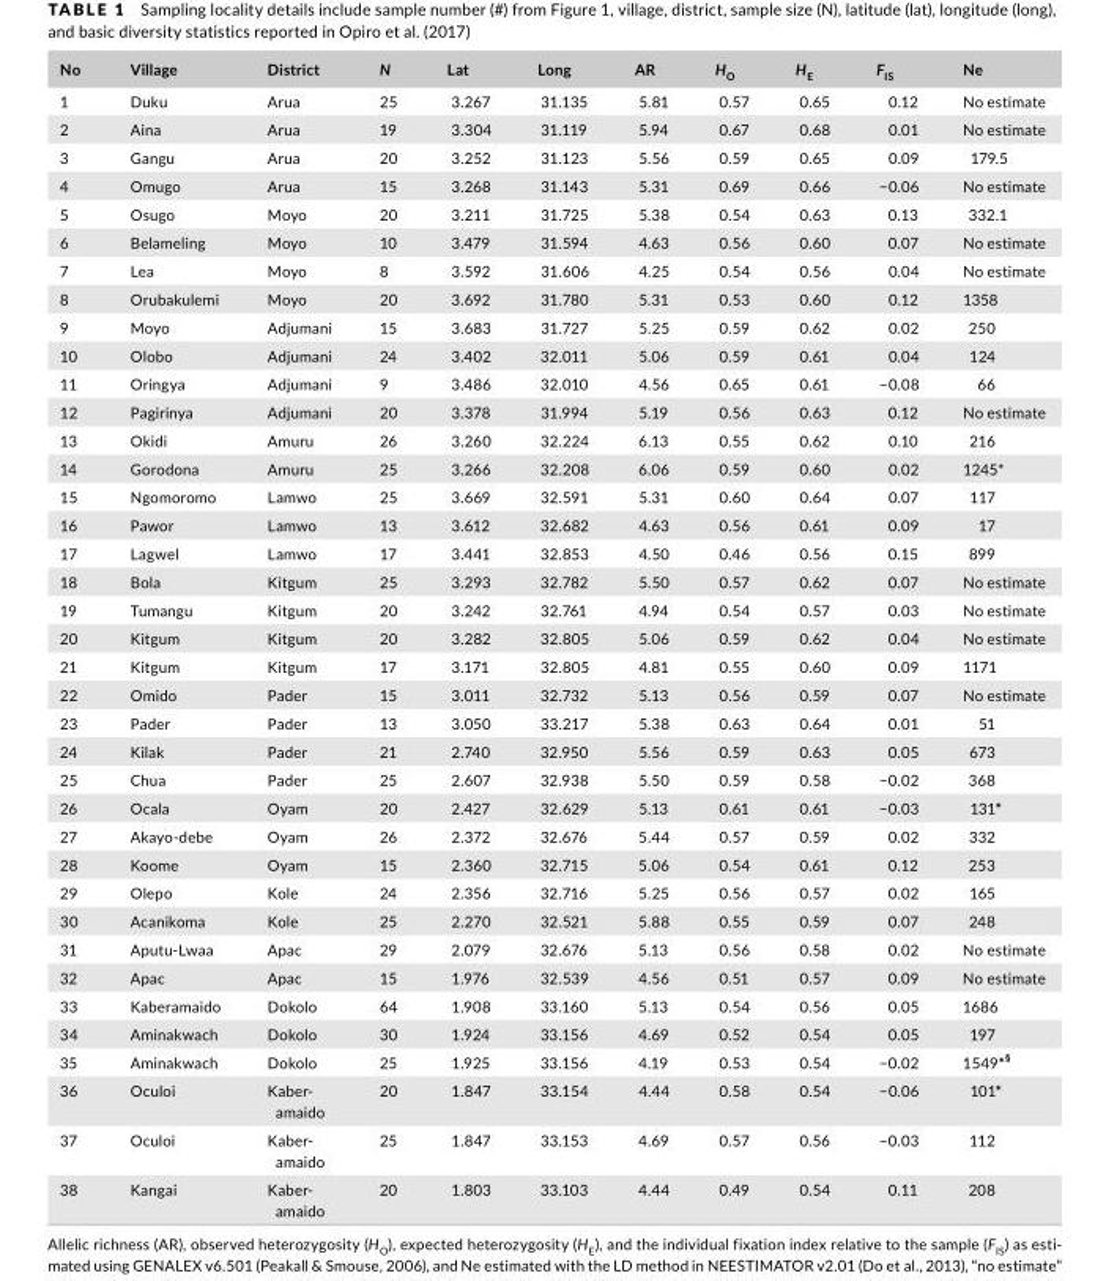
<table><thead><tr><td>No</td><td>Village</td><td>District</td><td>N</td><td>Lat</td><td>Long</td><td>AR</td><td>H<sub>O</sub></td><td>H<sub>E</sub></td><td>F<sub>IS</sub></td><td>Ne</td></tr></thead><tbody><tr><td>1</td><td>Duku</td><td>Arua</td><td>25</td><td>3.267</td><td>31.135</td><td>5.81</td><td>0.57</td><td>0.65</td><td>0.12</td><td>No estimate</td></tr><tr><td>2</td><td>Aina</td><td>Arua</td><td>19</td><td>3.304</td><td>31.119</td><td>5.94</td><td>0.67</td><td>0.68</td><td>0.01</td><td>No estimate</td></tr><tr><td>3</td><td>Gangu</td><td>Arua</td><td>20</td><td>3.252</td><td>31.123</td><td>5.56</td><td>0.59</td><td>0.65</td><td>0.09</td><td>179.5</td></tr><tr><td>4</td><td>Omugo</td><td>Arua</td><td>15</td><td>3.268</td><td>31.143</td><td>5.31</td><td>0.69</td><td>0.66</td><td>−0.06</td><td>No estimate</td></tr><tr><td>5</td><td>Osugo</td><td>Moyo</td><td>20</td><td>3.211</td><td>31.725</td><td>5.38</td><td>0.54</td><td>0.63</td><td>0.13</td><td>332.1</td></tr><tr><td>6</td><td>Belameling</td><td>Moyo</td><td>10</td><td>3.479</td><td>31.594</td><td>4.63</td><td>0.56</td><td>0.60</td><td>0.07</td><td>No estimate</td></tr><tr><td>7</td><td>Lea</td><td>Moyo</td><td>8</td><td>3.592</td><td>31.606</td><td>4.25</td><td>0.54</td><td>0.56</td><td>0.04</td><td>No estimate</td></tr><tr><td>8</td><td>Orubakulemi</td><td>Moyo</td><td>20</td><td>3.692</td><td>31.780</td><td>5.31</td><td>0.53</td><td>0.60</td><td>0.12</td><td>1358</td></tr><tr><td>9</td><td>Moyo</td><td>Adjumani</td><td>15</td><td>3.683</td><td>31.727</td><td>5.25</td><td>0.59</td><td>0.62</td><td>0.02</td><td>250</td></tr><tr><td>10</td><td>Olobo</td><td>Adjumani</td><td>24</td><td>3.402</td><td>32.011</td><td>5.06</td><td>0.59</td><td>0.61</td><td>0.04</td><td>124</td></tr><tr><td>11</td><td>Oringya</td><td>Adjumani</td><td>9</td><td>3.486</td><td>32.010</td><td>4.56</td><td>0.65</td><td>0.61</td><td>−0.08</td><td>66</td></tr><tr><td>12</td><td>Pagirinya</td><td>Adjumani</td><td>20</td><td>3.378</td><td>31.994</td><td>5.19</td><td>0.56</td><td>0.63</td><td>0.12</td><td>No estimate</td></tr><tr><td>13</td><td>Okidi</td><td>Amuru</td><td>26</td><td>3.260</td><td>32.224</td><td>6.13</td><td>0.55</td><td>0.62</td><td>0.10</td><td>216</td></tr><tr><td>14</td><td>Gorodona</td><td>Amuru</td><td>25</td><td>3.266</td><td>32.208</td><td>6.06</td><td>0.59</td><td>0.60</td><td>0.02</td><td>1245*</td></tr><tr><td>15</td><td>Ngomoromo</td><td>Lamwo</td><td>25</td><td>3.669</td><td>32.591</td><td>5.31</td><td>0.60</td><td>0.64</td><td>0.07</td><td>117</td></tr><tr><td>16</td><td>Pawor</td><td>Lamwo</td><td>13</td><td>3.612</td><td>32.682</td><td>4.63</td><td>0.56</td><td>0.61</td><td>0.09</td><td>17</td></tr><tr><td>17</td><td>Lagwel</td><td>Lamwo</td><td>17</td><td>3.441</td><td>32.853</td><td>4.50</td><td>0.46</td><td>0.56</td><td>0.15</td><td>899</td></tr><tr><td>18</td><td>Bola</td><td>Kitgum</td><td>25</td><td>3.293</td><td>32.782</td><td>5.50</td><td>0.57</td><td>0.62</td><td>0.07</td><td>No estimate</td></tr><tr><td>19</td><td>Tumangu</td><td>Kitgum</td><td>20</td><td>3.242</td><td>32.761</td><td>4.94</td><td>0.54</td><td>0.57</td><td>0.03</td><td>No estimate</td></tr><tr><td>20</td><td>Kitgum</td><td>Kitgum</td><td>20</td><td>3.282</td><td>32.805</td><td>5.06</td><td>0.59</td><td>0.62</td><td>0.04</td><td>No estimate</td></tr><tr><td>21</td><td>Kitgum</td><td>Kitgum</td><td>17</td><td>3.171</td><td>32.805</td><td>4.81</td><td>0.55</td><td>0.60</td><td>0.09</td><td>1171</td></tr><tr><td>22</td><td>Omido</td><td>Pader</td><td>15</td><td>3.011</td><td>32.732</td><td>5.13</td><td>0.56</td><td>0.59</td><td>0.07</td><td>No estimate</td></tr><tr><td>23</td><td>Pader</td><td>Pader</td><td>13</td><td>3.050</td><td>33.217</td><td>5.38</td><td>0.63</td><td>0.64</td><td>0.01</td><td>51</td></tr><tr><td>24</td><td>Kilak</td><td>Pader</td><td>21</td><td>2.740</td><td>32.950</td><td>5.56</td><td>0.59</td><td>0.63</td><td>0.05</td><td>673</td></tr><tr><td>25</td><td>Chua</td><td>Pader</td><td>25</td><td>2.607</td><td>32.938</td><td>5.50</td><td>0.59</td><td>0.58</td><td>−0.02</td><td>368</td></tr><tr><td>26</td><td>Ocala</td><td>Oyam</td><td>20</td><td>2.427</td><td>32.629</td><td>5.13</td><td>0.61</td><td>0.61</td><td>−0.03</td><td>131*</td></tr><tr><td>27</td><td>Akayo- debe</td><td>Oyam</td><td>26</td><td>2.372</td><td>32.676</td><td>5.44</td><td>0.57</td><td>0.59</td><td>0.02</td><td>332</td></tr><tr><td>28</td><td>Koome</td><td>Oyam</td><td>15</td><td>2.360</td><td>32.715</td><td>5.06</td><td>0.54</td><td>0.61</td><td>0.12</td><td>253</td></tr><tr><td>29</td><td>Olepo</td><td>Kole</td><td>24</td><td>2.356</td><td>32.716</td><td>5.25</td><td>0.56</td><td>0.57</td><td>0.02</td><td>165</td></tr><tr><td>30</td><td>Acanikoma</td><td>Kole</td><td>25</td><td>2.270</td><td>32.521</td><td>5.88</td><td>0.55</td><td>0.59</td><td>0.07</td><td>248</td></tr><tr><td>31</td><td>Aputu- Lwaa</td><td>Apac</td><td>29</td><td>2.079</td><td>32.676</td><td>5.13</td><td>0.56</td><td>0.58</td><td>0.02</td><td>No estimate</td></tr><tr><td>32</td><td>Apac</td><td>Apac</td><td>15</td><td>1.976</td><td>32.539</td><td>4.56</td><td>0.51</td><td>0.57</td><td>0.09</td><td>No estimate</td></tr><tr><td>33</td><td>Kaberamaido</td><td>Dokolo</td><td>64</td><td>1.908</td><td>33.160</td><td>5.13</td><td>0.54</td><td>0.56</td><td>0.05</td><td>1686</td></tr><tr><td>34</td><td>Aminakwach</td><td>Dokolo</td><td>30</td><td>1.924</td><td>33.156</td><td>4.69</td><td>0.52</td><td>0.54</td><td>0.05</td><td>197</td></tr><tr><td>35</td><td>Aminakwach</td><td>Dokolo</td><td>25</td><td>1.925</td><td>33.156</td><td>4.19</td><td>0.53</td><td>0.54</td><td>−0.02</td><td>1549*<sup>§</sup></td></tr><tr><td>36</td><td>Oculoi</td><td>Kaber- amaido</td><td>20</td><td>1.847</td><td>33.154</td><td>4.44</td><td>0.58</td><td>0.54</td><td>−0.06</td><td>101*</td></tr><tr><td>37</td><td>Oculoi</td><td>Kaber- amaido</td><td>25</td><td>1.847</td><td>33.153</td><td>4.69</td><td>0.57</td><td>0.56</td><td>−0.03</td><td>112</td></tr><tr><td>38</td><td>Kangai</td><td>Kaber- amaido</td><td>20</td><td>1.803</td><td>33.103</td><td>4.44</td><td>0.49</td><td>0.54</td><td>0.11</td><td>208</td></tr></tbody></table>